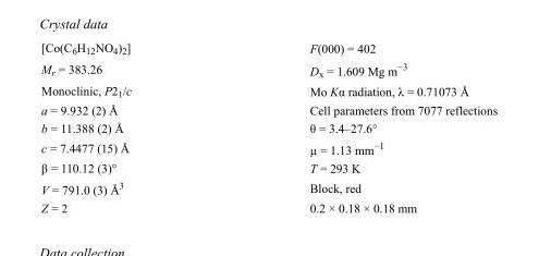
<table><tbody><tr><td>[Co(C<sub>6</sub>H<sub>12</sub>NO<sub>4</sub>)<sub>2</sub>]</td><td>F(000) = 402</td></tr><tr><td>M<sub>r</sub> = 383.26</td><td>D<sub>x</sub> = 1.609 Mg m<sup>−3</sup></td></tr><tr><td>Monoclinic, P2<sub>1</sub>/c</td><td>Mo Kα radiation, λ = 0.71073 Å</td></tr><tr><td>a = 9.932 (2) Å</td><td>Cell parameters from 7077 reflections</td></tr><tr><td>b = 11.388 (2) Å</td><td>θ = 3.4–27.6°</td></tr><tr><td>c = 7.4477 (15) Å</td><td>µ = 1.13 mm<sup>−1</sup></td></tr><tr><td>β = 110.12 (3)°</td><td>T = 293 K</td></tr><tr><td>V = 791.0 (3) Å<sup>3</sup></td><td>Block, red</td></tr><tr><td>Z = 2</td><td>0.2 × 0.18 × 0.18 mm</td></tr></tbody></table>